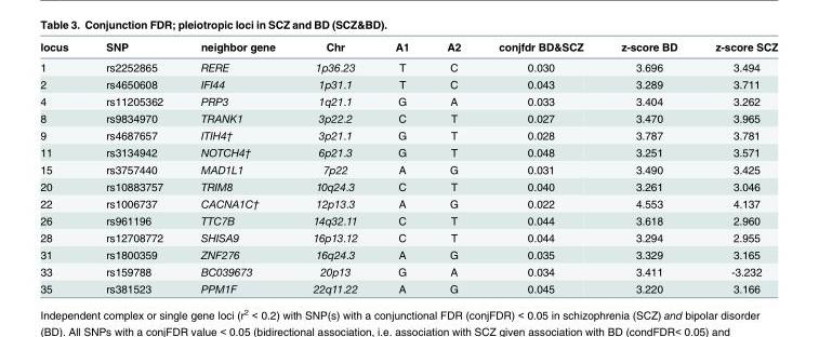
<table><thead><tr><td>locus</td><td>SNP</td><td>neighbor gene</td><td>Chr</td><td>A1</td><td>A2</td><td>conjfdr BD&amp;SCZ</td><td>z-score BD</td><td>z-score SCZ</td></tr></thead><tbody><tr><td>1</td><td>rs2252865</td><td>RERE</td><td>1p36.23</td><td>T</td><td>C</td><td>0.030</td><td>3.696</td><td>3.494</td></tr><tr><td>2</td><td>rs4650608</td><td>IFI44</td><td>1p31.1</td><td>T</td><td>C</td><td>0.043</td><td>3.289</td><td>3.711</td></tr><tr><td>4</td><td>rs11205362</td><td>PRP3</td><td>1q21.1</td><td>G</td><td>A</td><td>0.033</td><td>3.404</td><td>3.262</td></tr><tr><td>8</td><td>rs9834970</td><td>TRANK1</td><td>3p22.2</td><td>C</td><td>T</td><td>0.027</td><td>3.470</td><td>3.965</td></tr><tr><td>9</td><td>rs4687657</td><td>ITIH4†</td><td>3p21.1</td><td>G</td><td>T</td><td>0.028</td><td>3.787</td><td>3.781</td></tr><tr><td>11</td><td>rs3134942</td><td>NOTCH4†</td><td>6p21.3</td><td>G</td><td>T</td><td>0.048</td><td>3.251</td><td>3.571</td></tr><tr><td>15</td><td>rs3757440</td><td>MAD1L1</td><td>7p22</td><td>A</td><td>G</td><td>0.031</td><td>3.490</td><td>3.425</td></tr><tr><td>20</td><td>rs10883757</td><td>TRIM8</td><td>10q24.3</td><td>C</td><td>T</td><td>0.040</td><td>3.261</td><td>3.046</td></tr><tr><td>22</td><td>rs1006737</td><td>CACNA1C†</td><td>12p13.3</td><td>A</td><td>G</td><td>0.022</td><td>4.553</td><td>4.137</td></tr><tr><td>26</td><td>rs961196</td><td>TTC7B</td><td>14q32.11</td><td>C</td><td>T</td><td>0.044</td><td>3.618</td><td>2.960</td></tr><tr><td>28</td><td>rs12708772</td><td>SHISA9</td><td>16p13.12</td><td>C</td><td>T</td><td>0.044</td><td>3.294</td><td>2.955</td></tr><tr><td>31</td><td>rs1800359</td><td>ZNF276</td><td>16q24.3</td><td>A</td><td>G</td><td>0.035</td><td>3.329</td><td>3.165</td></tr><tr><td>33</td><td>rs159788</td><td>BC039673</td><td>20p13</td><td>G</td><td>A</td><td>0.034</td><td>3.411</td><td>-3.232</td></tr><tr><td>35</td><td>rs381523</td><td>PPM1F</td><td>22q11.22</td><td>A</td><td>G</td><td>0.045</td><td>3.220</td><td>3.166</td></tr></tbody></table>